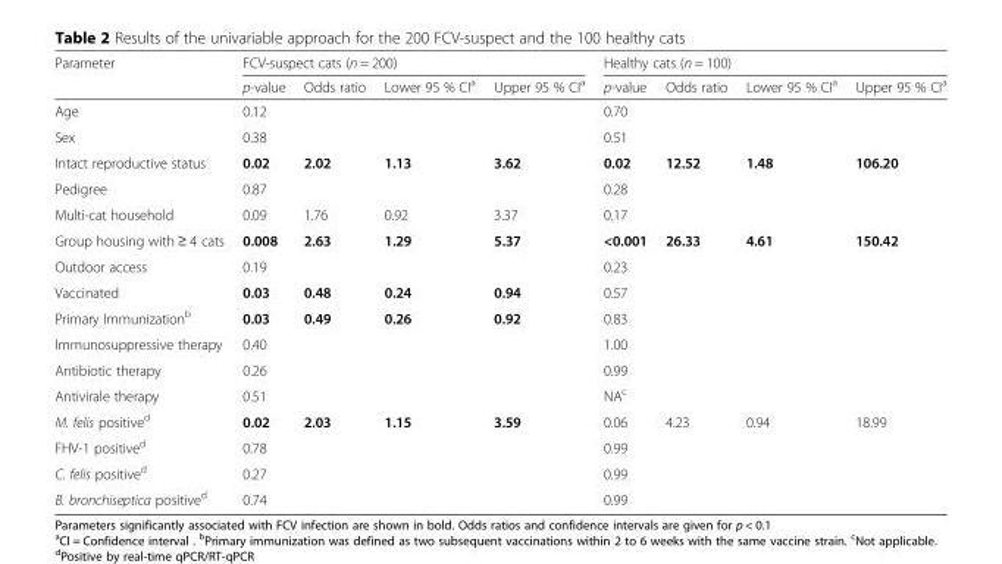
<table><thead><tr><td rowspan="2">Parameter</td><td colspan="4">FCV-suspect cats (n = 200)</td><td colspan="4">Healthy cats (n = 100)</td></tr><tr><td>p-value</td><td>Odds ratio</td><td>Lower 95 % CI<sup>a</sup></td><td>Upper 95 % CI<sup>a</sup></td><td>p-value</td><td>Odds ratio</td><td>Lower 95 % CI<sup>a</sup></td><td>Upper 95 % CI<sup>a</sup></td></tr></thead><tbody><tr><td>Age</td><td>0.12</td><td></td><td></td><td></td><td>0.70</td><td></td><td></td><td></td></tr><tr><td>Sex</td><td>0.38</td><td></td><td></td><td></td><td>0.51</td><td></td><td></td><td></td></tr><tr><td>Intact reproductive status</td><td>0.02</td><td>2.02</td><td>1.13</td><td>3.62</td><td>0.02</td><td>12.52</td><td>1.48</td><td>106.20</td></tr><tr><td>Pedigree</td><td>0.87</td><td></td><td></td><td></td><td>0.28</td><td></td><td></td><td></td></tr><tr><td>Multi-cat household</td><td>0.09</td><td>1.76</td><td>0.92</td><td>3.37</td><td>0.17</td><td></td><td></td><td></td></tr><tr><td>Group housing with ≥ 4 cats</td><td>0.008</td><td>2.63</td><td>1.29</td><td>5.37</td><td>&lt;0.001</td><td>26.33</td><td>4.61</td><td>150.42</td></tr><tr><td>Outdoor access</td><td>0.19</td><td></td><td></td><td></td><td>0.23</td><td></td><td></td><td></td></tr><tr><td>Vaccinated</td><td>0.03</td><td>0.48</td><td>0.24</td><td>0.94</td><td>0.57</td><td></td><td></td><td></td></tr><tr><td>Primary Immunization<sup>b</sup></td><td>0.03</td><td>0.49</td><td>0.26</td><td>0.92</td><td>0.83</td><td></td><td></td><td></td></tr><tr><td>Immunosuppressive therapy</td><td>0.40</td><td></td><td></td><td></td><td>1.00</td><td></td><td></td><td></td></tr><tr><td>Antibiotic therapy</td><td>0.26</td><td></td><td></td><td></td><td>0.99</td><td></td><td></td><td></td></tr><tr><td>Antivirale therapy</td><td>0.51</td><td></td><td></td><td></td><td>NA<sup>c</sup></td><td></td><td></td><td></td></tr><tr><td>M. felis positive<sup>d</sup></td><td>0.02</td><td>2.03</td><td>1.15</td><td>3.59</td><td>0.06</td><td>4.23</td><td>0.94</td><td>18.99</td></tr><tr><td>FHV-1 positive<sup>d</sup></td><td>0.78</td><td></td><td></td><td></td><td>0.99</td><td></td><td></td><td></td></tr><tr><td>C. felis positive<sup>d</sup></td><td>0.27</td><td></td><td></td><td></td><td>0.99</td><td></td><td></td><td></td></tr><tr><td>B. bronchiseptica positive<sup>d</sup></td><td>0.74</td><td></td><td></td><td></td><td>0.99</td><td></td><td></td><td></td></tr></tbody></table>